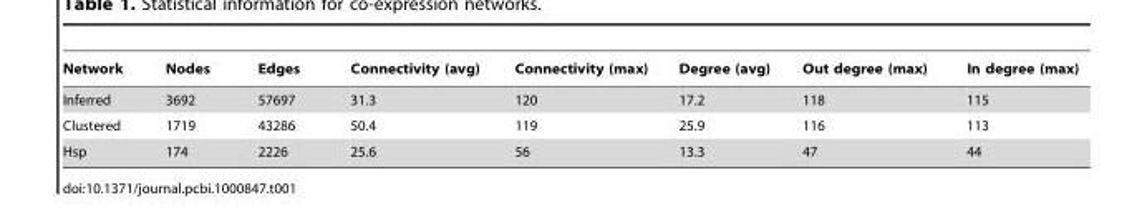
<table><thead><tr><td>Network</td><td>Nodes</td><td>Edges</td><td>Connectivity (avg)</td><td>Connectivity (max)</td><td>Degree (avg)</td><td>Out degree (max)</td><td>In degree (max)</td></tr></thead><tbody><tr><td>Inferred</td><td>3692</td><td>57697</td><td>31.3</td><td>120</td><td>17.2</td><td>118</td><td>115</td></tr><tr><td>Clustered</td><td>1719</td><td>43286</td><td>50.4</td><td>119</td><td>25.9</td><td>116</td><td>113</td></tr><tr><td>Hsp</td><td>174</td><td>2226</td><td>25.6</td><td>56</td><td>13.3</td><td>47</td><td>44</td></tr></tbody></table>